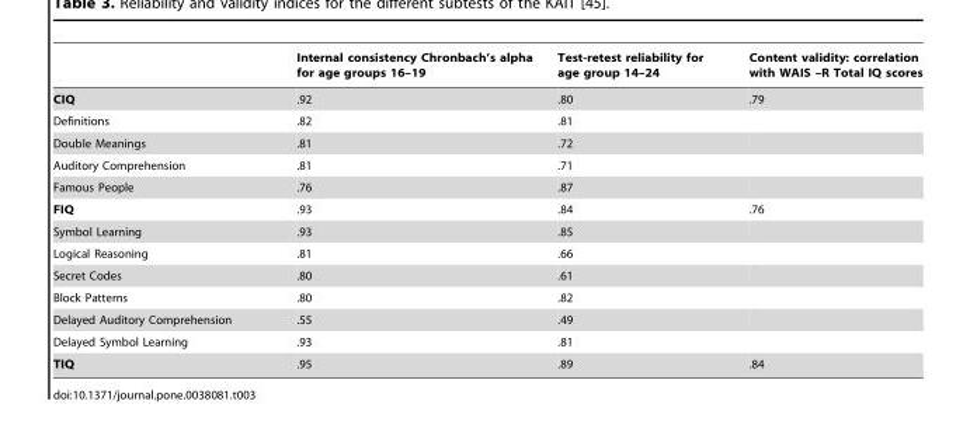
<table><thead><tr><td></td><td>Internal consistency Chronbach’s alpha for age groups 16–19</td><td>Test-retest reliability for age group 14–24</td><td>Content validity: correlation with WAIS –R Total IQ scores</td></tr></thead><tbody><tr><td>CIQ</td><td>.92</td><td>.80</td><td>.79</td></tr><tr><td>Definitions</td><td>.82</td><td>.81</td><td></td></tr><tr><td>Double Meanings</td><td>.81</td><td>.72</td><td></td></tr><tr><td>Auditory Comprehension</td><td>.81</td><td>.71</td><td></td></tr><tr><td>Famous People</td><td>.76</td><td>.87</td><td></td></tr><tr><td>FIQ</td><td>.93</td><td>.84</td><td>.76</td></tr><tr><td>Symbol Learning</td><td>.93</td><td>.85</td><td></td></tr><tr><td>Logical Reasoning</td><td>.81</td><td>.66</td><td></td></tr><tr><td>Secret Codes</td><td>.80</td><td>.61</td><td></td></tr><tr><td>Block Patterns</td><td>.80</td><td>.82</td><td></td></tr><tr><td>Delayed Auditory Comprehension</td><td>.55</td><td>.49</td><td></td></tr><tr><td>Delayed Symbol Learning</td><td>.93</td><td>.81</td><td></td></tr><tr><td>TIQ</td><td>.95</td><td>.89</td><td>.84</td></tr></tbody></table>